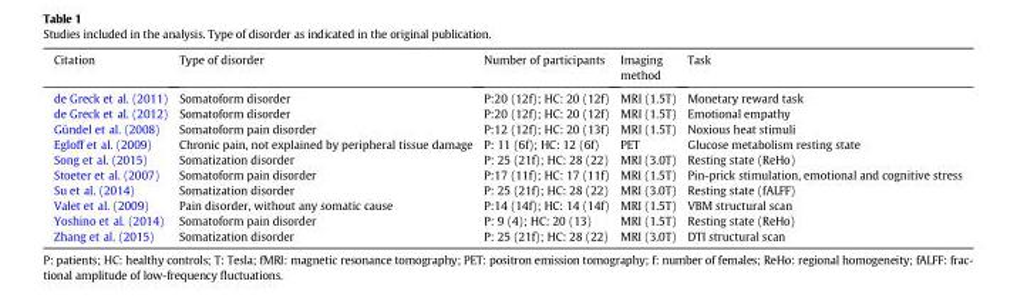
<table><thead><tr><td>Citation</td><td>Type of disorder</td><td>Number of participants</td><td>Imaging method</td><td>Task</td></tr></thead><tbody><tr><td>de Greck et al. (2011)</td><td>Somatoform disorder</td><td>P:20 (12f); HC: 20 (12f)</td><td>MRI (1.5T)</td><td>Monetary reward task</td></tr><tr><td>de Greck et al. (2012)</td><td>Somatoform disorder</td><td>P:20 (12f); HC: 20 (12f)</td><td>MRI (1.5T)</td><td>Emotional empathy</td></tr><tr><td>Gündel et al. (2008)</td><td>Somatoform pain disorder</td><td>P:12 (12f); HC: 20 (13f)</td><td>MRI (1.5T)</td><td>Noxious heat stimuli</td></tr><tr><td>Egloff et al. (2009)</td><td>Chronic pain, not explained by peripheral tissue damage</td><td>P: 11 (6f); HC: 12 (6f)</td><td>PET</td><td>Glucose metabolism resting state</td></tr><tr><td>Song et al. (2015)</td><td>Somatization disorder</td><td>P: 25 (21f); HC: 28 (22)</td><td>MRI (3.0T)</td><td>Resting state (ReHo)</td></tr><tr><td>Stoeter et al. (2007)</td><td>Somatoform pain disorder</td><td>P:17 (11f); HC: 17 (11f)</td><td>MRI (1.5T)</td><td>Pin-prick stimulation, emotional and cognitive stress</td></tr><tr><td>Su et al. (2014)</td><td>Somatization disorder</td><td>P: 25 (21f); HC: 28 (22)</td><td>MRI (3.0T)</td><td>Resting state (fALFF)</td></tr><tr><td>Valet et al. (2009)</td><td>Pain disorder, without any somatic cause</td><td>P:14 (14f); HC: 14 (14f)</td><td>MRI (1.5T)</td><td>VBM structural scan</td></tr><tr><td>Yoshino et al. (2014)</td><td>Somatoform pain disorder</td><td>P: 9 (4); HC: 20 (13)</td><td>MRI (1.5T)</td><td>Resting state (ReHo)</td></tr><tr><td>Zhang et al. (2015)</td><td>Somatization disorder</td><td>P: 25 (21f); HC: 28 (22)</td><td>MRI (3.0T)</td><td>DTI structural scan</td></tr></tbody></table>